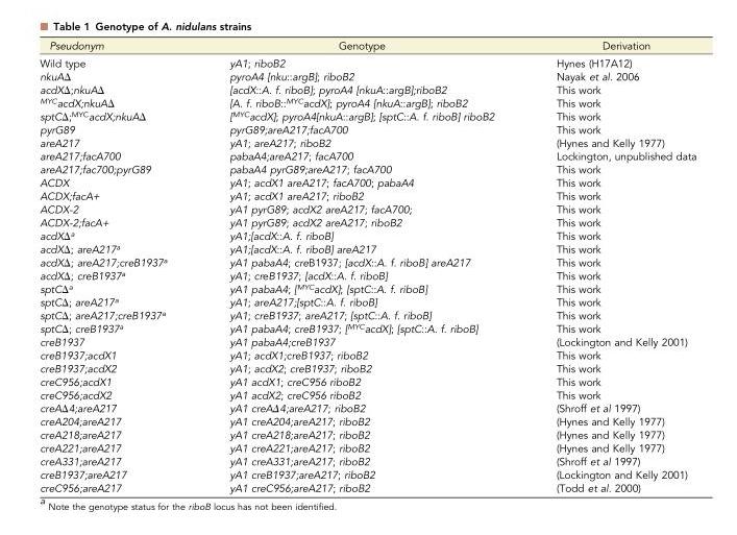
<table><thead><tr><td>Pseudonym</td><td>Genotype</td><td>Derivation</td></tr></thead><tbody><tr><td>Wild type</td><td>yA1; riboB2</td><td>Hynes (H17A12)</td></tr><tr><td>nkuAΔ</td><td>pyroA4 [nku::argB]; riboB2</td><td>Nayak et al. 2006</td></tr><tr><td>acdXΔ;nkuAΔ</td><td>[acdX::A. f. riboB]; pyroA4 [nkuA::argB];riboB2</td><td>This work</td></tr><tr><td><sup>MYC</sup>acdX;nkuAΔ</td><td>[A. f. riboB::<sup>MYC</sup>acdX]; pyroA4 [nkuA::argB]; riboB2</td><td>This work</td></tr><tr><td>sptCΔ;<sup>MYC</sup>acdX;nkuAΔ</td><td>[<sup>MYC</sup>acdX]; pyroA4[nkuA::argB]; [sptC::A. f. riboB] riboB2</td><td>This work</td></tr><tr><td>pyrG89</td><td>pyrG89;areA217;facA700</td><td>This work</td></tr><tr><td>areA217</td><td>yA1; areA217; riboB2</td><td>(Hynes and Kelly 1977)</td></tr><tr><td>areA217;facA700</td><td>pabaA4;areA217; facA700</td><td>Lockington, unpublished data</td></tr><tr><td>areA217;fac700;pyrG89</td><td>pabaA4 pyrG89;areA217; facA700</td><td>This work</td></tr><tr><td>ACDX</td><td>yA1; acdX1 areA217; facA700; pabaA4</td><td>This work</td></tr><tr><td>ACDX;facA+</td><td>yA1; acdX1 areA217; riboB2</td><td>This work</td></tr><tr><td>ACDX-2</td><td>yA1 pyrG89; acdX2 areA217; facA700;</td><td>This work</td></tr><tr><td>ACDX-2;facA+</td><td>yA1 pyrG89; acdX2 areA217; riboB2</td><td>This work</td></tr><tr><td>acdXΔ<sup>a</sup></td><td>yA1;[acdX::A. f. riboB]</td><td>This work</td></tr><tr><td>acdXΔ; areA217<sup>a</sup></td><td>yA1;[acdX::A. f. riboB] areA217</td><td>This work</td></tr><tr><td>acdXΔ; areA217;creB1937<sup>a</sup></td><td>yA1 pabaA4; creB1937; [acdX::A. f. riboB] areA217</td><td>This work</td></tr><tr><td>acdXΔ; creB1937<sup>a</sup></td><td>yA1; creB1937; [acdX::A. f. riboB]</td><td>This work</td></tr><tr><td>sptCΔ<sup>a</sup></td><td>yA1 pabaA4; [<sup>MYC</sup>acdX]; [sptC::A. f. riboB]</td><td>This work</td></tr><tr><td>sptCΔ; areA217<sup>a</sup></td><td>yA1; areA217;[sptC::A. f. riboB]</td><td>This work</td></tr><tr><td>sptCΔ; areA217;creB1937<sup>a</sup></td><td>yA1; creB1937; areA217; [sptC::A. f. riboB]</td><td>This work</td></tr><tr><td>sptCΔ; creB1937<sup>a</sup></td><td>yA1 pabaA4; creB1937; [<sup>MYC</sup>acdX]; [sptC::A. f. riboB]</td><td>This work</td></tr><tr><td>creB1937</td><td>yA1 pabaA4;creB1937</td><td>(Lockington and Kelly 2001)</td></tr><tr><td>creB1937;acdX1</td><td>yA1; acdX1;creB1937; riboB2</td><td>This work</td></tr><tr><td>creB1937;acdX2</td><td>yA1; acdX2; creB1937; riboB2</td><td>This work</td></tr><tr><td>creC956;acdX1</td><td>yA1 acdX1; creC956 riboB2</td><td>This work</td></tr><tr><td>creC956;acdX2</td><td>yA1 acdX2; creC956 riboB2</td><td>This work</td></tr><tr><td>creAΔ4;areA217</td><td>yA1 creAΔ4;areA217; riboB2</td><td>(Shroff et al 1997)</td></tr><tr><td>creA204;areA217</td><td>yA1 creA204;areA217; riboB2</td><td>(Hynes and Kelly 1977)</td></tr><tr><td>creA218;areA217</td><td>yA1 creA218;areA217; riboB2</td><td>(Hynes and Kelly 1977)</td></tr><tr><td>creA221;areA217</td><td>yA1 creA221;areA217; riboB2</td><td>(Hynes and Kelly 1977)</td></tr><tr><td>creA331;areA217</td><td>yA1 creA331;areA217; riboB2</td><td>(Shroff et al 1997)</td></tr><tr><td>creB1937;areA217</td><td>yA1 creB1937;areA217; riboB2</td><td>(Lockington and Kelly 2001)</td></tr><tr><td>creC956;areA217</td><td>yA1 creC956;areA217; riboB2</td><td>(Todd et al. 2000)</td></tr></tbody></table>